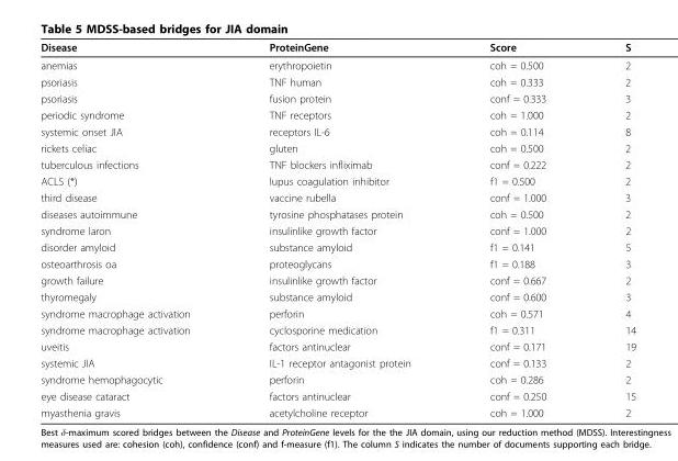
<table><thead><tr><td>Disease</td><td>ProteinGene</td><td>Score</td><td>S</td></tr></thead><tbody><tr><td>anemias</td><td>erythropoietin</td><td>coh = 0.500</td><td>2</td></tr><tr><td>psoriasis</td><td>TNF human</td><td>coh = 0.333</td><td>2</td></tr><tr><td>psoriasis</td><td>fusion protein</td><td>conf = 0.333</td><td>3</td></tr><tr><td>periodic syndrome</td><td>TNF receptors</td><td>coh = 1.000</td><td>2</td></tr><tr><td>systemic onset JIA</td><td>receptors IL-6</td><td>coh = 0.114</td><td>8</td></tr><tr><td>rickets celiac</td><td>gluten</td><td>coh = 0.500</td><td>2</td></tr><tr><td>tuberculous infections</td><td>TNF blockers infliximab</td><td>conf = 0.222</td><td>2</td></tr><tr><td>ACLS (*)</td><td>lupus coagulation inhibitor</td><td>f1 = 0.500</td><td>2</td></tr><tr><td>third disease</td><td>vaccine rubella</td><td>conf = 1.000</td><td>3</td></tr><tr><td>diseases autoimmune</td><td>tyrosine phosphatases protein</td><td>coh = 0.500</td><td>2</td></tr><tr><td>syndrome laron</td><td>insulinlike growth factor</td><td>conf = 1.000</td><td>2</td></tr><tr><td>disorder amyloid</td><td>substance amyloid</td><td>f1 = 0.141</td><td>5</td></tr><tr><td>osteoarthrosis oa</td><td>proteoglycans</td><td>f1 = 0.188</td><td>3</td></tr><tr><td>growth failure</td><td>insulinlike growth factor</td><td>conf = 0.667</td><td>2</td></tr><tr><td>thyromegaly</td><td>substance amyloid</td><td>conf = 0.600</td><td>3</td></tr><tr><td>syndrome macrophage activation</td><td>perforin</td><td>coh = 0.571</td><td>4</td></tr><tr><td>syndrome macrophage activation</td><td>cyclosporine medication</td><td>f1 = 0.311</td><td>14</td></tr><tr><td>uveitis</td><td>factors antinuclear</td><td>conf = 0.171</td><td>19</td></tr><tr><td>systemic JIA</td><td>IL-1 receptor antagonist protein</td><td>conf = 0.133</td><td>2</td></tr><tr><td>syndrome hemophagocytic</td><td>perforin</td><td>coh = 0.286</td><td>2</td></tr><tr><td>eye disease cataract</td><td>factors antinuclear</td><td>conf = 0.250</td><td>15</td></tr><tr><td>myasthenia gravis</td><td>acetylcholine receptor</td><td>coh = 1.000</td><td>2</td></tr></tbody></table>